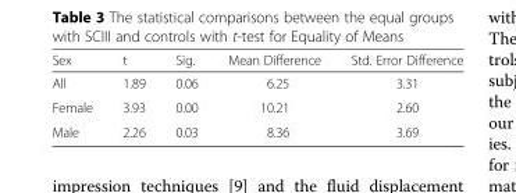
<table><thead><tr><td>Sex</td><td>t</td><td>Sig.</td><td>Mean Difference</td><td>Std. Error Difference</td></tr></thead><tbody><tr><td>All</td><td>1.89</td><td>0.06</td><td>6.25</td><td>3.31</td></tr><tr><td>Female</td><td>3.93</td><td>0.00</td><td>10.21</td><td>2.60</td></tr><tr><td>Male</td><td>2.26</td><td>0.03</td><td>8.36</td><td>3.69</td></tr></tbody></table>